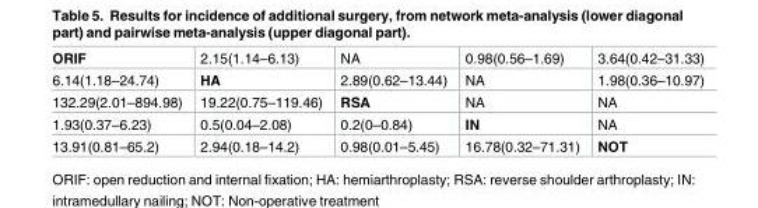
<table><tbody><tr><td>ORIF</td><td>2.15(1.14–6.13)</td><td>NA</td><td>0.98(0.56–1.69)</td><td>3.64(0.42–31.33)</td></tr><tr><td>6.14(1.18–24.74)</td><td>HA</td><td>2.89(0.62–13.44)</td><td>NA</td><td>1.98(0.36–10.97)</td></tr><tr><td>132.29(2.01–894.98)</td><td>19.22(0.75–119.46)</td><td>RSA</td><td>NA</td><td>NA</td></tr><tr><td>1.93(0.37–6.23)</td><td>0.5(0.04–2.08)</td><td>0.2(0–0.84)</td><td>IN</td><td>NA</td></tr><tr><td>13.91(0.81–65.2)</td><td>2.94(0.18–14.2)</td><td>0.98(0.01–5.45)</td><td>16.78(0.32–71.31)</td><td>NOT</td></tr></tbody></table>